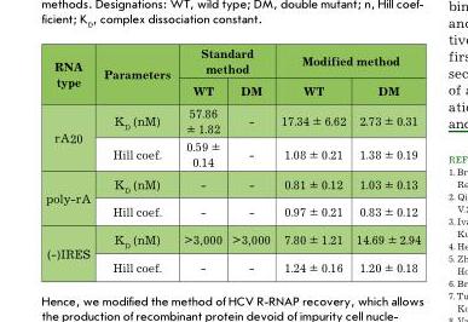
<table><thead><tr><td rowspan="2">RNA type</td><td rowspan="2">Parameters</td><td colspan="2">Standard method</td><td colspan="2">Modified method</td></tr><tr><td>WT</td><td>DM</td><td>WT</td><td>DM</td></tr></thead><tbody><tr><td rowspan="2">rA20</td><td>K<sub>D</sub> (nM)</td><td>57.86 ± 1.82</td><td>-</td><td>17.34 ± 6.62</td><td>2.73 ± 0.31</td></tr><tr><td>Hill coef.</td><td>0.59 ± 0.14</td><td>-</td><td>1.08 ± 0.21</td><td>1.38 ± 0.19</td></tr><tr><td rowspan="2">poly-rA</td><td>K<sub>D</sub> (nM)</td><td>-</td><td>-</td><td>0.81 ± 0.12</td><td>1.03 ± 0.13</td></tr><tr><td>Hill coef.</td><td>-</td><td>-</td><td>0.97 ± 0.21</td><td>0.83 ± 0.12</td></tr><tr><td rowspan="2">(-)IreS</td><td>K<sub>D</sub> (nM)</td><td>&gt;3,000</td><td>&gt;3,000</td><td>7.80 ± 1.21</td><td>14.69 ± 2.94</td></tr><tr><td>Hill coef.</td><td>-</td><td>-</td><td>1.24 ± 0.16</td><td>1.20 ± 0.18</td></tr></tbody></table>